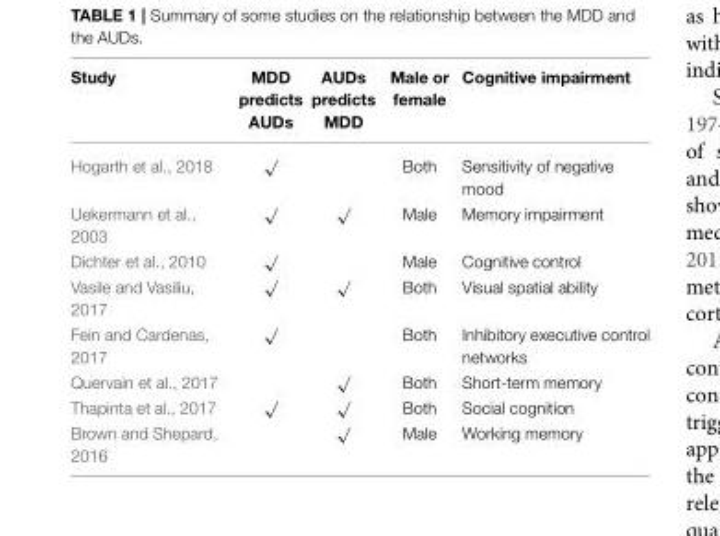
<table><thead><tr><td>Study</td><td>MDD predicts AUDs</td><td>AUDs predicts MDD</td><td>Male or female</td><td>Cognitive impairment</td></tr></thead><tbody><tr><td>Hogarth et al., 2018</td><td>√</td><td></td><td>Both</td><td>Sensitivity of negative mood</td></tr><tr><td>Uekermann et al., 2003</td><td>√</td><td>√</td><td>Male</td><td>Memory impairment</td></tr><tr><td>Dichter et al., 2010</td><td>√</td><td></td><td>Male</td><td>Cognitive control</td></tr><tr><td>Vasile and Vasiliu, 2017</td><td>√</td><td>√</td><td>Both</td><td>Visual spatial ability</td></tr><tr><td>Fein and Cardenas, 2017</td><td>√</td><td></td><td>Both</td><td>Inhibitory executive control networks</td></tr><tr><td>Quervain et al., 2017</td><td></td><td>√</td><td>Both</td><td>Short-term memory</td></tr><tr><td>Thapinta et al., 2017</td><td>√</td><td>√</td><td>Both</td><td>Social cognition</td></tr><tr><td>Brown and Shepard, 2016</td><td></td><td>√</td><td>Male</td><td>Working memory</td></tr></tbody></table>